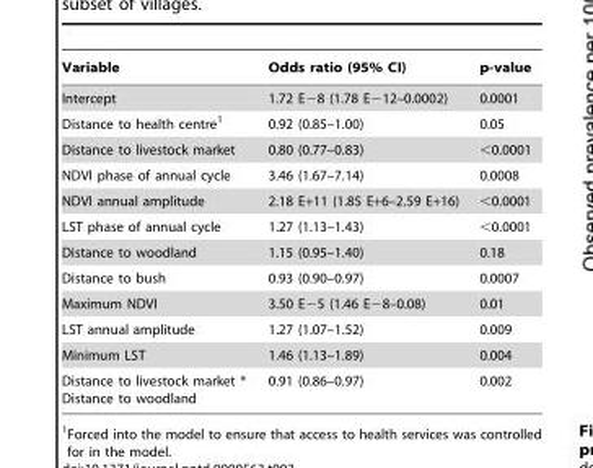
<table><thead><tr><td>Variable</td><td>Odds ratio (95% CI)</td><td>p-value</td></tr></thead><tbody><tr><td>Intercept</td><td>1.72 E−8 (1.78 E−12–0.0002)</td><td>0.0001</td></tr><tr><td>Distance to health centre<sup>1</sup></td><td>0.92 (0.85–1.00)</td><td>0.05</td></tr><tr><td>Distance to livestock market</td><td>0.80 (0.77–0.83)</td><td>&lt;0.0001</td></tr><tr><td>NDVI phase of annual cycle</td><td>3.46 (1.67–7.14)</td><td>0.0008</td></tr><tr><td>NDVI annual amplitude</td><td>2.18 E+11 (1.85 E+6–2.59 E+16)</td><td>&lt;0.0001</td></tr><tr><td>LST phase of annual cycle</td><td>1.27 (1.13–1.43)</td><td>&lt;0.0001</td></tr><tr><td>Distance to woodland</td><td>1.15 (0.95–1.40)</td><td>0.18</td></tr><tr><td>Distance to bush</td><td>0.93 (0.90–0.97)</td><td>0.0007</td></tr><tr><td>Maximum NDVI</td><td>3.50 E−5 (1.46 E−8–0.08)</td><td>0.01</td></tr><tr><td>LST annual amplitude</td><td>1.27 (1.07–1.52)</td><td>0.009</td></tr><tr><td>Minimum LST</td><td>1.46 (1.13–1.89)</td><td>0.004</td></tr><tr><td>Distance to livestock market * Distance to woodland</td><td>0.91 (0.86–0.97)</td><td>0.002</td></tr></tbody></table>